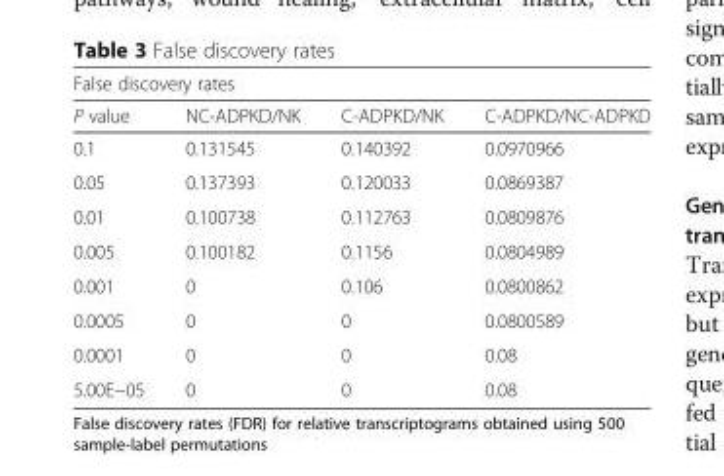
<table><thead><tr><td colspan="4">False discovery rates</td></tr><tr><td>P value</td><td>NC-ADPKD/NK</td><td>C-ADPKD/NK</td><td>C-ADPKD/NC-ADPKD</td></tr></thead><tbody><tr><td>0.1</td><td>0.131545</td><td>0.140392</td><td>0.0970966</td></tr><tr><td>0.05</td><td>0.137393</td><td>0.120033</td><td>0.0869387</td></tr><tr><td>0.01</td><td>0.100738</td><td>0.112763</td><td>0.0809876</td></tr><tr><td>0.005</td><td>0.100182</td><td>0.1156</td><td>0.0804989</td></tr><tr><td>0.001</td><td>0</td><td>0.106</td><td>0.0800862</td></tr><tr><td>0.0005</td><td>0</td><td>0</td><td>0.0800589</td></tr><tr><td>0.0001</td><td>0</td><td>0</td><td>0.08</td></tr><tr><td>5.00E−05</td><td>0</td><td>0</td><td>0.08</td></tr></tbody></table>